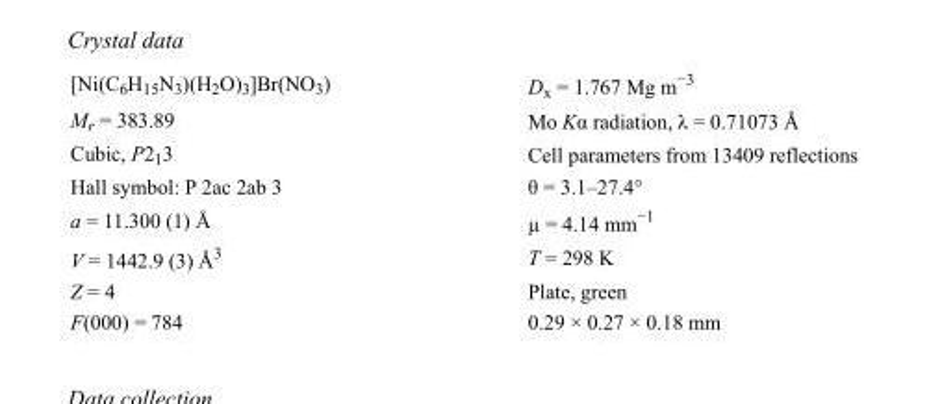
<table><tbody><tr><td>[Ni(C<sub>6</sub>H<sub>15</sub>N<sub>3</sub>)(H<sub>2</sub>O)<sub>3</sub>]Br(NO<sub>3</sub>)</td><td>D<sub>x</sub> = 1.767 Mg m<sup>−3</sup></td></tr><tr><td>M<sub>r</sub> = 383.89</td><td>Mo Kα radiation, λ = 0.71073 Å</td></tr><tr><td>Cubic, P2<sub>1</sub>3</td><td>Cell parameters from 13409 reflections</td></tr><tr><td>Hall symbol: P 2ac 2ab 3</td><td>θ = 3.1–27.4°</td></tr><tr><td>a = 11.300 (1) Å</td><td>µ = 4.14 mm<sup>−1</sup></td></tr><tr><td>V = 1442.9 (3) Å<sup>3</sup></td><td>T = 298 K</td></tr><tr><td>Z = 4</td><td>Plate, green</td></tr><tr><td>F(000) = 784</td><td>0.29 × 0.27 × 0.18 mm</td></tr></tbody></table>